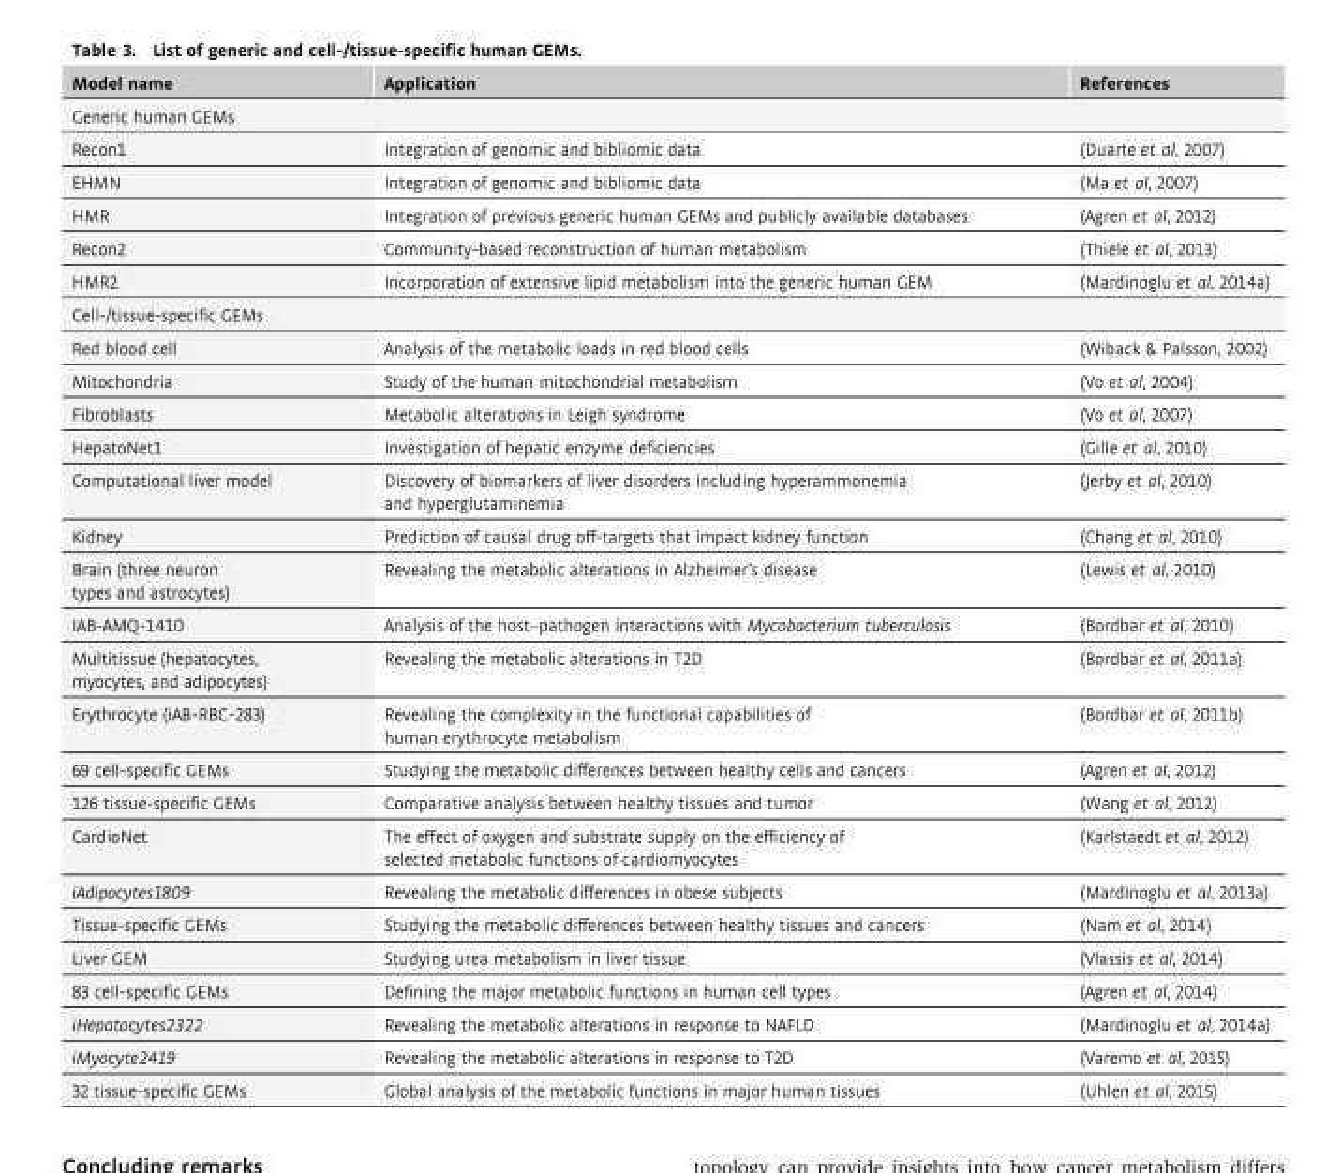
<table><thead><tr><td>Model name</td><td>Application</td><td>References</td></tr></thead><tbody><tr><td colspan="3">Generic human GEMs</td></tr><tr><td>Recon1</td><td>Integration of genomic and bibliomic data</td><td>(Duarte et al, 2007)</td></tr><tr><td>EHMN</td><td>Integration of genomic and bibliomic data</td><td>(Ma et al, 2007)</td></tr><tr><td>HMR</td><td>Integration of previous generic human GEMs and publicly available databases</td><td>(Agren et al, 2012)</td></tr><tr><td>Recon2</td><td>Community-based reconstruction of human metabolism</td><td>(Thiele et al, 2013)</td></tr><tr><td>HMR2</td><td>Incorporation of extensive lipid metabolism into the generic human GEM</td><td>(Mardinoglu et al, 2014a)</td></tr><tr><td colspan="3">Cell-/tissue-specific GEMs</td></tr><tr><td>Red blood cell</td><td>Analysis of the metabolic loads in red blood cells</td><td>(Wiback &amp; Palsson, 2002)</td></tr><tr><td>Mitochondria</td><td>Study of the human mitochondrial metabolism</td><td>(Vo et al, 2004)</td></tr><tr><td>Fibroblasts</td><td>Metabolic alterations in Leigh syndrome</td><td>(Vo et al, 2007)</td></tr><tr><td>HepatoNet1</td><td>Investigation of hepatic enzyme deficiencies</td><td>(Gille et al, 2010)</td></tr><tr><td>Computational liver model</td><td>Discovery of biomarkers of liver disorders including hyperammonemia and hyperglutaminemia</td><td>(Jerby et al, 2010)</td></tr><tr><td>Kidney</td><td>Prediction of causal drug off-targets that impact kidney function</td><td>(Chang et al, 2010)</td></tr><tr><td>Brain (three neuron types and astrocytes)</td><td>Revealing the metabolic alterations in Alzheimer’s disease</td><td>(Lewis et al, 2010)</td></tr><tr><td>IAB-AMQ-1410</td><td>Analysis of the host–pathogen interactions with Mycobacterium tuberculosis</td><td>(Bordbar et al, 2010)</td></tr><tr><td>Multitissue (hepatocytes, myocytes, and adipocytes)</td><td>Revealing the metabolic alterations in T2D</td><td>(Bordbar et al, 2011a)</td></tr><tr><td>Erythrocyte (iAB-RBC-283)</td><td>Revealing the complexity in the functional capabilities of human erythrocyte metabolism</td><td>(Bordbar et al, 2011b)</td></tr><tr><td>69 cell-specific GEMs</td><td>Studying the metabolic differences between healthy cells and cancers</td><td>(Agren et al, 2012)</td></tr><tr><td>126 tissue-specific GEMs</td><td>Comparative analysis between healthy tissues and tumor</td><td>(Wang et al, 2012)</td></tr><tr><td>CardioNet</td><td>The effect of oxygen and substrate supply on the efficiency of selected metabolic functions of cardiomyocytes</td><td>(Karlstaedt et al, 2012)</td></tr><tr><td>iAdipocytes1809</td><td>Revealing the metabolic differences in obese subjects</td><td>(Mardinoglu et al, 2013a)</td></tr><tr><td>Tissue-specific GEMs</td><td>Studying the metabolic differences between healthy tissues and cancers</td><td>(Nam et al, 2014)</td></tr><tr><td>Liver GEM</td><td>Studying urea metabolism in liver tissue</td><td>(Vlassis et al, 2014)</td></tr><tr><td>83 cell-specific GEMs</td><td>Defining the major metabolic functions in human cell types</td><td>(Agren et al, 2014)</td></tr><tr><td>iHepatocytes2322</td><td>Revealing the metabolic alterations in response to NAFLD</td><td>(Mardinoglu et al, 2014a)</td></tr><tr><td>iMyocyte2419</td><td>Revealing the metabolic alterations in response to T2D</td><td>(Varemo et al, 2015)</td></tr><tr><td>32 tissue-specific GEMs</td><td>Global analysis of the metabolic functions in major human tissues</td><td>(Uhlen et al, 2015)</td></tr></tbody></table>